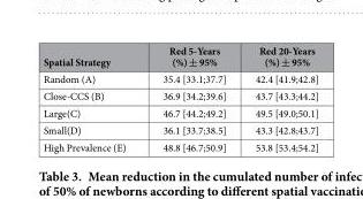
<table><thead><tr><td>Spatial Strategy</td><td>Red 5-Years (%) ± 95%</td><td>Red 20-Years (%) ± 95%</td></tr></thead><tbody><tr><td>Random (A)</td><td>35.4 [33.1;37.7]</td><td>42.4 [41.9;42.8]</td></tr><tr><td>Close-CCS (B)</td><td>36.9 [34.2;39.6]</td><td>43.7 [43.3;44.2]</td></tr><tr><td>Large(C)</td><td>46.7 [44.2;49.2]</td><td>49.5 [49.0;50.1]</td></tr><tr><td>Small(D)</td><td>36.1 [33.7;38.5]</td><td>43.3 [42.8;43.7]</td></tr><tr><td>High Prevalence (E)</td><td>48.8 [46.7;50.9]</td><td>53.8 [53.4;54.2]</td></tr></tbody></table>